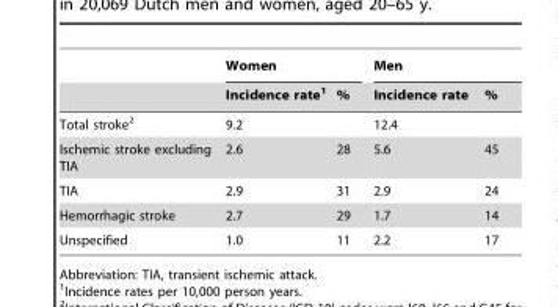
<table><thead><tr><td rowspan="2"></td><td colspan="2">Women</td><td colspan="2">Men</td></tr><tr><td>Incidence rate<sup>1</sup></td><td>%</td><td>Incidence rate</td><td>%</td></tr></thead><tbody><tr><td>Total stroke<sup>2</sup></td><td>9.2</td><td></td><td>12.4</td><td></td></tr><tr><td>Ischemic stroke excluding TIA</td><td>2.6</td><td>28</td><td>5.6</td><td>45</td></tr><tr><td>TIA</td><td>2.9</td><td>31</td><td>2.9</td><td>24</td></tr><tr><td>Hemorrhagic stroke</td><td>2.7</td><td>29</td><td>1.7</td><td>14</td></tr><tr><td>Unspecified</td><td>1.0</td><td>11</td><td>2.2</td><td>17</td></tr></tbody></table>